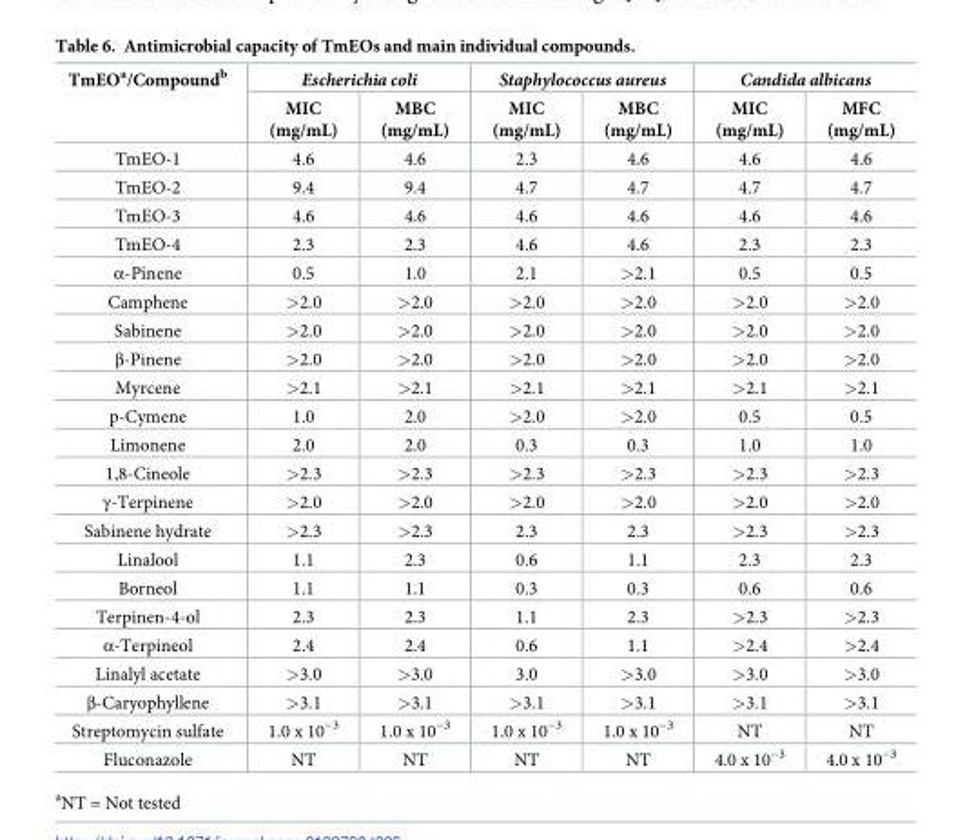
<table><thead><tr><td rowspan="2">TmEO<sup>a</sup>/Compound<sup>b</sup></td><td colspan="2">Escherichia coli</td><td colspan="2">Staphylococcus aureus</td><td colspan="2">Candida albicans</td></tr><tr><td>MIC (mg/mL)</td><td>MBC (mg/mL)</td><td>MIC (mg/mL)</td><td>MBC (mg/mL)</td><td>MIC (mg/mL)</td><td>MFC (mg/mL)</td></tr></thead><tbody><tr><td>TmEO-1</td><td>4.6</td><td>4.6</td><td>2.3</td><td>4.6</td><td>4.6</td><td>4.6</td></tr><tr><td>TmEO-2</td><td>9.4</td><td>9.4</td><td>4.7</td><td>4.7</td><td>4.7</td><td>4.7</td></tr><tr><td>TmEO-3</td><td>4.6</td><td>4.6</td><td>4.6</td><td>4.6</td><td>4.6</td><td>4.6</td></tr><tr><td>TmEO-4</td><td>2.3</td><td>2.3</td><td>4.6</td><td>4.6</td><td>2.3</td><td>2.3</td></tr><tr><td>α-Pinene</td><td>0.5</td><td>1.0</td><td>2.1</td><td>&gt;2.1</td><td>0.5</td><td>0.5</td></tr><tr><td>Camphene</td><td>&gt;2.0</td><td>&gt;2.0</td><td>&gt;2.0</td><td>&gt;2.0</td><td>&gt;2.0</td><td>&gt;2.0</td></tr><tr><td>Sabinene</td><td>&gt;2.0</td><td>&gt;2.0</td><td>&gt;2.0</td><td>&gt;2.0</td><td>&gt;2.0</td><td>&gt;2.0</td></tr><tr><td>β-Pinene</td><td>&gt;2.0</td><td>&gt;2.0</td><td>&gt;2.0</td><td>&gt;2.0</td><td>&gt;2.0</td><td>&gt;2.0</td></tr><tr><td>Myrcene</td><td>&gt;2.1</td><td>&gt;2.1</td><td>&gt;2.1</td><td>&gt;2.1</td><td>&gt;2.1</td><td>&gt;2.1</td></tr><tr><td>p-Cymene</td><td>1.0</td><td>2.0</td><td>&gt;2.0</td><td>&gt;2.0</td><td>0.5</td><td>0.5</td></tr><tr><td>Limonene</td><td>2.0</td><td>2.0</td><td>0.3</td><td>0.3</td><td>1.0</td><td>1.0</td></tr><tr><td>1,8-Cineole</td><td>&gt;2.3</td><td>&gt;2.3</td><td>&gt;2.3</td><td>&gt;2.3</td><td>&gt;2.3</td><td>&gt;2.3</td></tr><tr><td>γ-Terpinene</td><td>&gt;2.0</td><td>&gt;2.0</td><td>&gt;2.0</td><td>&gt;2.0</td><td>&gt;2.0</td><td>&gt;2.0</td></tr><tr><td>Sabinene hydrate</td><td>&gt;2.3</td><td>&gt;2.3</td><td>2.3</td><td>2.3</td><td>&gt;2.3</td><td>&gt;2.3</td></tr><tr><td>Linalool</td><td>1.1</td><td>2.3</td><td>0.6</td><td>1.1</td><td>2.3</td><td>2.3</td></tr><tr><td>Borneol</td><td>1.1</td><td>1.1</td><td>0.3</td><td>0.3</td><td>0.6</td><td>0.6</td></tr><tr><td>Terpinen-4-ol</td><td>2.3</td><td>2.3</td><td>1.1</td><td>2.3</td><td>&gt;2.3</td><td>&gt;2.3</td></tr><tr><td>α-Terpineol</td><td>2.4</td><td>2.4</td><td>0.6</td><td>1.1</td><td>&gt;2.4</td><td>&gt;2.4</td></tr><tr><td>Linalyl acetate</td><td>&gt;3.0</td><td>&gt;3.0</td><td>3.0</td><td>&gt;3.0</td><td>&gt;3.0</td><td>&gt;3.0</td></tr><tr><td>β-Caryophyllene</td><td>&gt;3.1</td><td>&gt;3.1</td><td>&gt;3.1</td><td>&gt;3.1</td><td>&gt;3.1</td><td>&gt;3.1</td></tr><tr><td>Streptomycin sulfate</td><td>1.0 x 10<sup>−3</sup></td><td>1.0 x 10<sup>−3</sup></td><td>1.0 x 10<sup>−3</sup></td><td>1.0 x 10<sup>−3</sup></td><td>NT</td><td>NT</td></tr><tr><td>Fluconazole</td><td>NT</td><td>NT</td><td>NT</td><td>NT</td><td>4.0 x 10<sup>−3</sup></td><td>4.0 x 10<sup>−3</sup></td></tr></tbody></table>